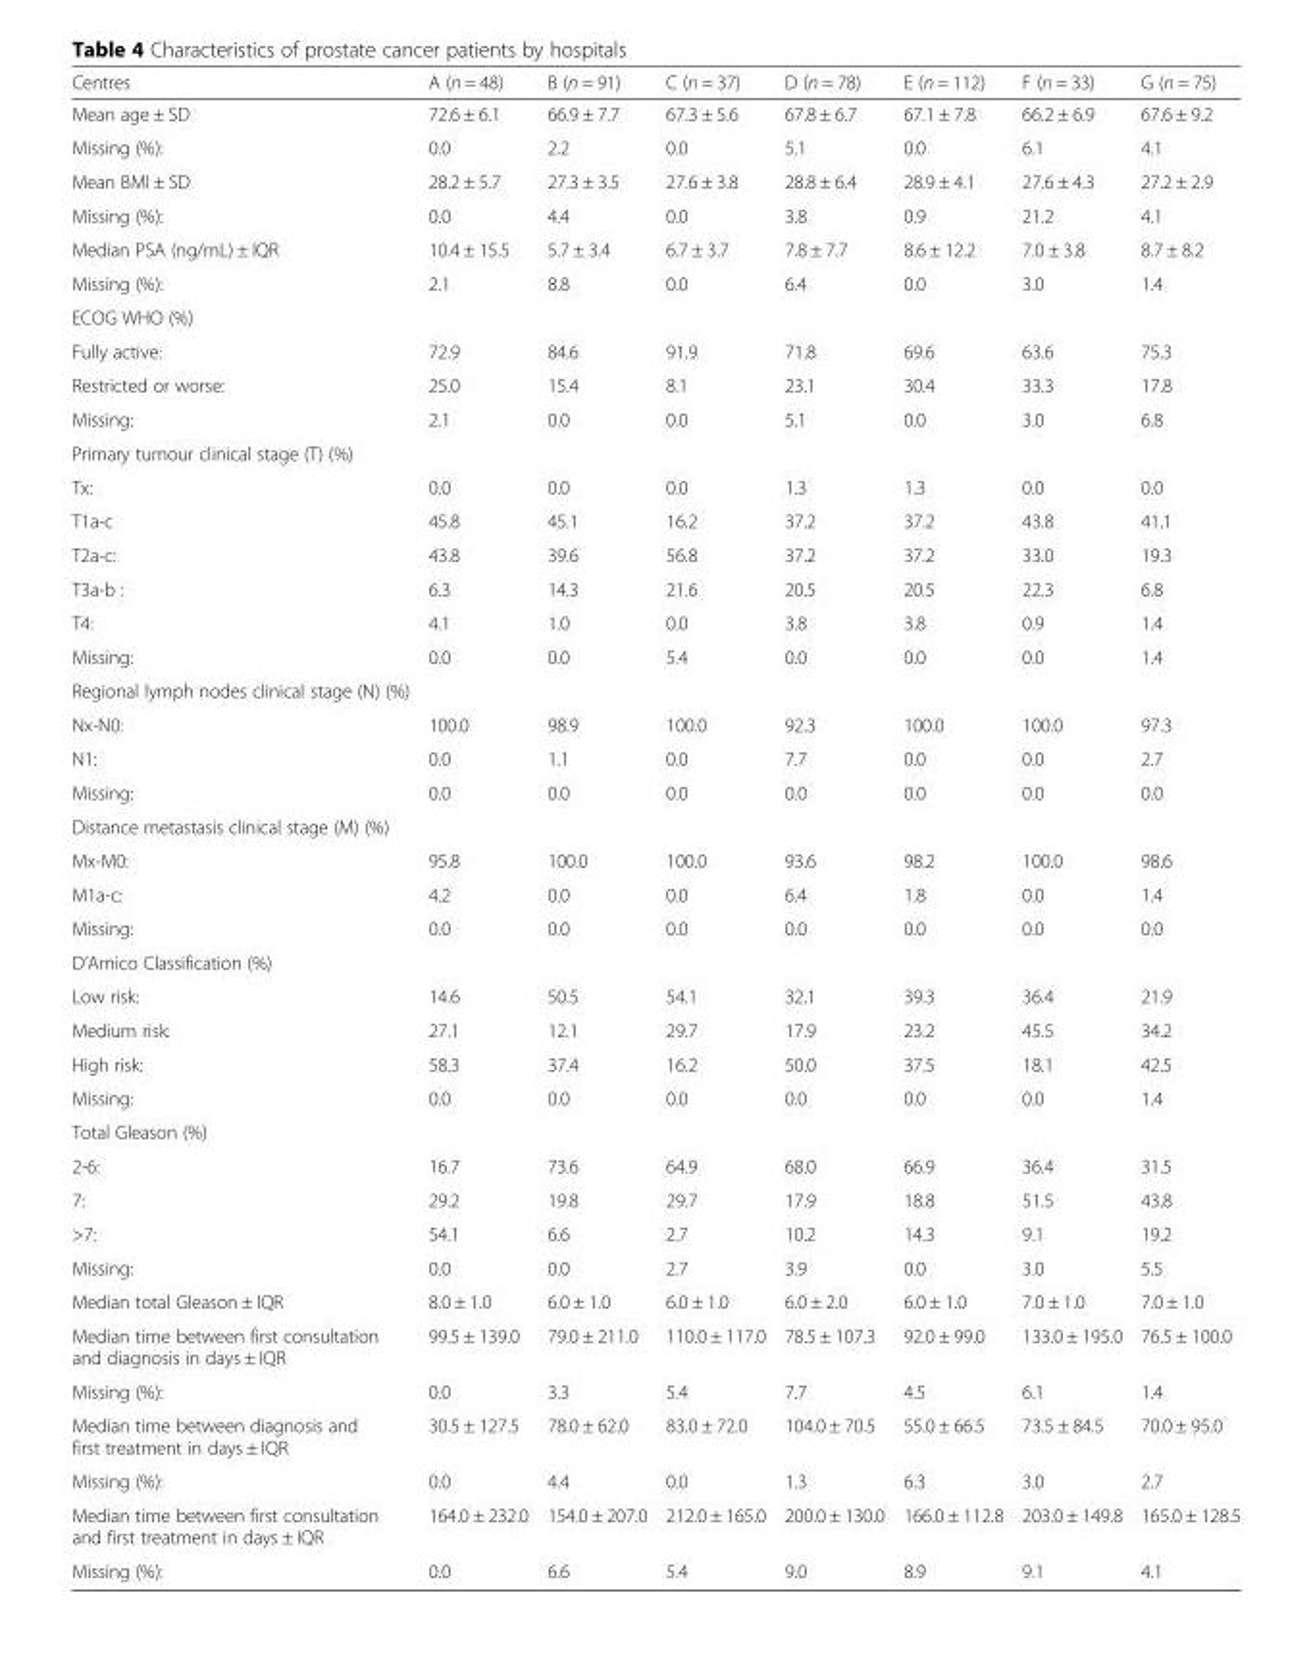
<table><thead><tr><td>Centres</td><td>A (n = 48)</td><td>B (n = 91)</td><td>C (n = 37)</td><td>D (n = 78)</td><td>E (n = 112)</td><td>F (n = 33)</td><td>G (n = 75)</td></tr></thead><tbody><tr><td>Mean age ± SD</td><td>72.6 ± 6.1</td><td>66.9 ± 7.7</td><td>67.3 ± 5.6</td><td>67.8 ± 6.7</td><td>67.1 ± 7.8</td><td>66.2 ± 6.9</td><td>67.6 ± 9.2</td></tr><tr><td>Missing (%):</td><td>0.0</td><td>2.2</td><td>0.0</td><td>5.1</td><td>0.0</td><td>6.1</td><td>4.1</td></tr><tr><td>Mean BMI ± SD</td><td>28.2 ± 5.7</td><td>27.3 ± 3.5</td><td>27.6 ± 3.8</td><td>28.8 ± 6.4</td><td>28.9 ± 4.1</td><td>27.6 ± 4.3</td><td>27.2 ± 2.9</td></tr><tr><td>Missing (%):</td><td>0.0</td><td>4.4</td><td>0.0</td><td>3.8</td><td>0.9</td><td>21.2</td><td>4.1</td></tr><tr><td>Median PSA (ng/mL) ± IQR</td><td>10.4 ± 15.5</td><td>5.7 ± 3.4</td><td>6.7 ± 3.7</td><td>7.8 ± 7.7</td><td>8.6 ± 12.2</td><td>7.0 ± 3.8</td><td>8.7 ± 8.2</td></tr><tr><td>Missing (%):</td><td>2.1</td><td>8.8</td><td>0.0</td><td>6.4</td><td>0.0</td><td>3.0</td><td>1.4</td></tr><tr><td colspan="8">ECOG WHO (%)</td></tr><tr><td>Fully active:</td><td>72.9</td><td>84.6</td><td>91.9</td><td>71.8</td><td>69.6</td><td>63.6</td><td>75.3</td></tr><tr><td>Restricted or worse:</td><td>25.0</td><td>15.4</td><td>8.1</td><td>23.1</td><td>30.4</td><td>33.3</td><td>17.8</td></tr><tr><td>Missing:</td><td>2.1</td><td>0.0</td><td>0.0</td><td>5.1</td><td>0.0</td><td>3.0</td><td>6.8</td></tr><tr><td colspan="8">Primary tumour clinical stage (T) (%)</td></tr><tr><td>Tx:</td><td>0.0</td><td>0.0</td><td>0.0</td><td>1.3</td><td>1.3</td><td>0.0</td><td>0.0</td></tr><tr><td>T1a-c</td><td>45.8</td><td>45.1</td><td>16.2</td><td>37.2</td><td>37.2</td><td>43.8</td><td>41.1</td></tr><tr><td>T2a-c:</td><td>43.8</td><td>39.6</td><td>56.8</td><td>37.2</td><td>37.2</td><td>33.0</td><td>19.3</td></tr><tr><td>T3a-b :</td><td>6.3</td><td>14.3</td><td>21.6</td><td>20.5</td><td>20.5</td><td>22.3</td><td>6.8</td></tr><tr><td>T4:</td><td>4.1</td><td>1.0</td><td>0.0</td><td>3.8</td><td>3.8</td><td>0.9</td><td>1.4</td></tr><tr><td>Missing:</td><td>0.0</td><td>0.0</td><td>5.4</td><td>0.0</td><td>0.0</td><td>0.0</td><td>1.4</td></tr><tr><td colspan="8">Regional lymph nodes clinical stage (N) (%)</td></tr><tr><td>Nx-N0:</td><td>100.0</td><td>98.9</td><td>100.0</td><td>92.3</td><td>100.0</td><td>100.0</td><td>97.3</td></tr><tr><td>N1:</td><td>0.0</td><td>1.1</td><td>0.0</td><td>7.7</td><td>0.0</td><td>0.0</td><td>2.7</td></tr><tr><td>Missing:</td><td>0.0</td><td>0.0</td><td>0.0</td><td>0.0</td><td>0.0</td><td>0.0</td><td>0.0</td></tr><tr><td colspan="8">Distance metastasis clinical stage (M) (%)</td></tr><tr><td>Mx-M0:</td><td>95.8</td><td>100.0</td><td>100.0</td><td>93.6</td><td>98.2</td><td>100.0</td><td>98.6</td></tr><tr><td>M1a-c:</td><td>4.2</td><td>0.0</td><td>0.0</td><td>6.4</td><td>1.8</td><td>0.0</td><td>1.4</td></tr><tr><td>Missing:</td><td>0.0</td><td>0.0</td><td>0.0</td><td>0.0</td><td>0.0</td><td>0.0</td><td>0.0</td></tr><tr><td colspan="8">D’Amico Classification (%)</td></tr><tr><td>Low risk:</td><td>14.6</td><td>50.5</td><td>54.1</td><td>32.1</td><td>39.3</td><td>36.4</td><td>21.9</td></tr><tr><td>Medium risk:</td><td>27.1</td><td>12.1</td><td>29.7</td><td>17.9</td><td>23.2</td><td>45.5</td><td>34.2</td></tr><tr><td>High risk:</td><td>58.3</td><td>37.4</td><td>16.2</td><td>50.0</td><td>37.5</td><td>18.1</td><td>42.5</td></tr><tr><td>Missing:</td><td>0.0</td><td>0.0</td><td>0.0</td><td>0.0</td><td>0.0</td><td>0.0</td><td>1.4</td></tr><tr><td colspan="8">Total Gleason (%)</td></tr><tr><td>2-6:</td><td>16.7</td><td>73.6</td><td>64.9</td><td>68.0</td><td>66.9</td><td>36.4</td><td>31.5</td></tr><tr><td>7:</td><td>29.2</td><td>19.8</td><td>29.7</td><td>17.9</td><td>18.8</td><td>51.5</td><td>43.8</td></tr><tr><td>&gt;7:</td><td>54.1</td><td>6.6</td><td>2.7</td><td>10.2</td><td>14.3</td><td>9.1</td><td>19.2</td></tr><tr><td>Missing:</td><td>0.0</td><td>0.0</td><td>2.7</td><td>3.9</td><td>0.0</td><td>3.0</td><td>5.5</td></tr><tr><td>Median total Gleason ± IQR</td><td>8.0 ± 1.0</td><td>6.0 ± 1.0</td><td>6.0 ± 1.0</td><td>6.0 ± 2.0</td><td>6.0 ± 1.0</td><td>7.0 ± 1.0</td><td>7.0 ± 1.0</td></tr><tr><td>Median time between first consultation and diagnosis in days ± IQR</td><td>99.5 ± 139.0</td><td>79.0 ± 211.0</td><td>110.0 ± 117.0</td><td>78.5 ± 107.3</td><td>92.0 ± 99.0</td><td>133.0 ± 195.0</td><td>76.5 ± 100.0</td></tr><tr><td>Missing (%):</td><td>0.0</td><td>3.3</td><td>5.4</td><td>7.7</td><td>4.5</td><td>6.1</td><td>1.4</td></tr><tr><td>Median time between diagnosis and first treatment in days ± IQR</td><td>30.5 ± 127.5</td><td>78.0 ± 62.0</td><td>83.0 ± 72.0</td><td>104.0 ± 70.5</td><td>55.0 ± 66.5</td><td>73.5 ± 84.5</td><td>70.0 ± 95.0</td></tr><tr><td>Missing (%):</td><td>0.0</td><td>4.4</td><td>0.0</td><td>1.3</td><td>6.3</td><td>3.0</td><td>2.7</td></tr><tr><td>Median time between first consultation and first treatment in days ± IQR</td><td>164.0 ± 232.0</td><td>154.0 ± 207.0</td><td>212.0 ± 165.0</td><td>200.0 ± 130.0</td><td>166.0 ± 112.8</td><td>203.0 ± 149.8</td><td>165.0 ± 128.5</td></tr><tr><td>Missing (%):</td><td>0.0</td><td>6.6</td><td>5.4</td><td>9.0</td><td>8.9</td><td>9.1</td><td>4.1</td></tr></tbody></table>